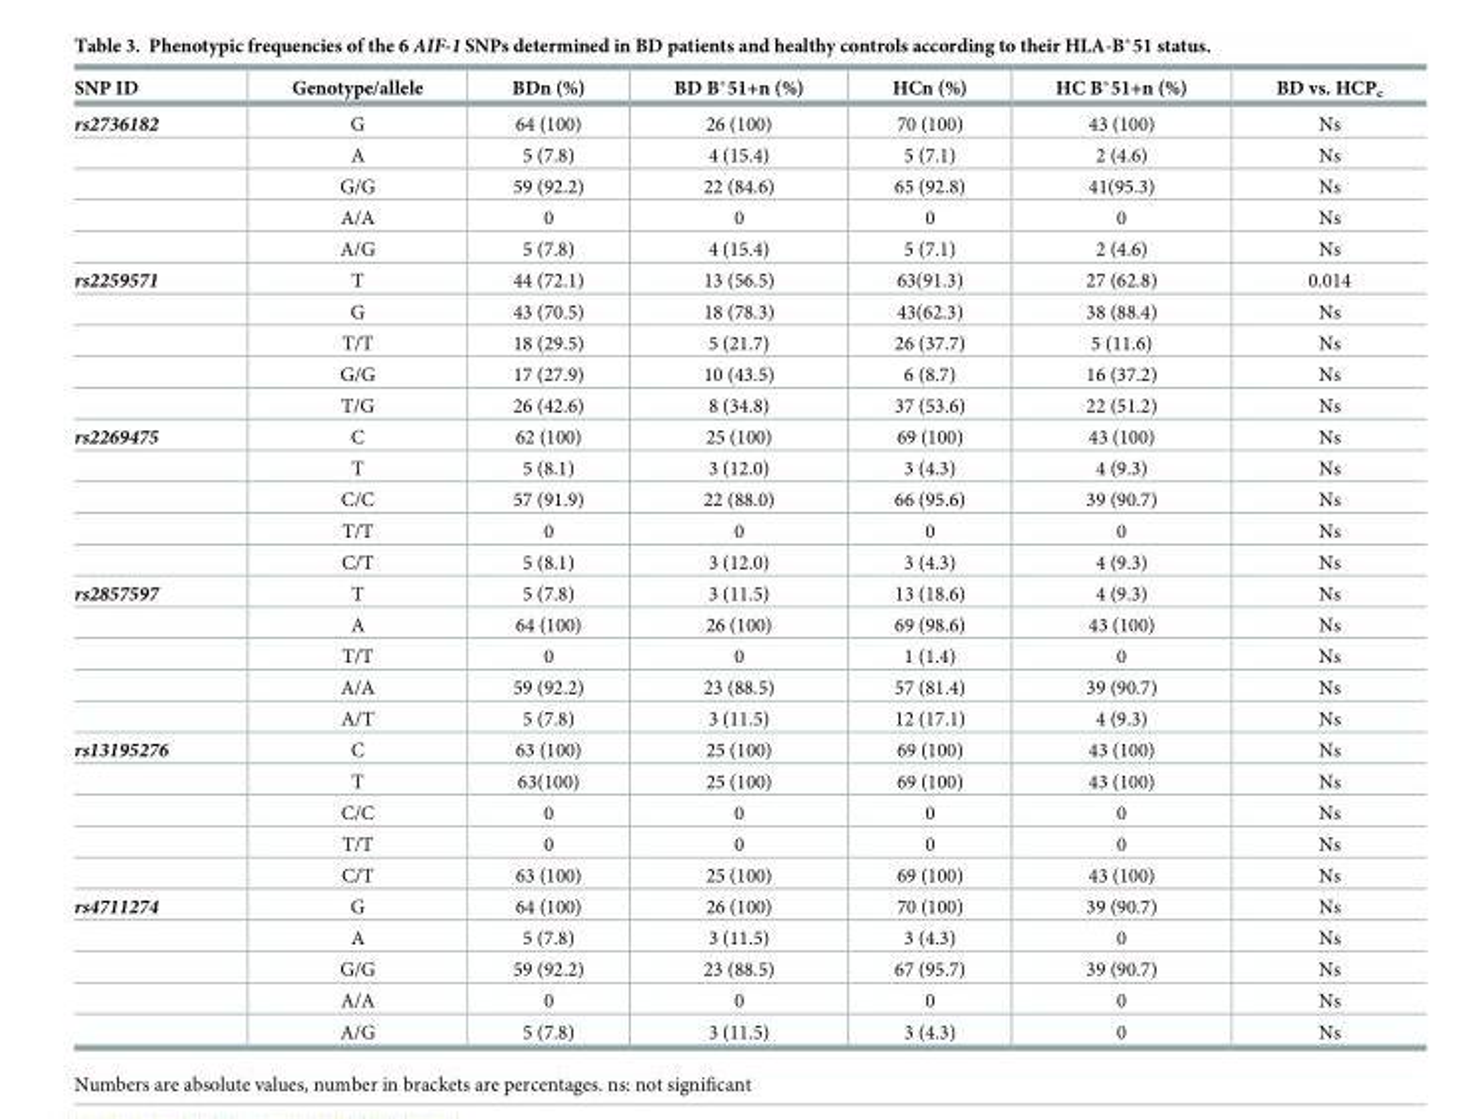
<table><thead><tr><td>SNP ID</td><td>Genotype/allele</td><td>BDn (%)</td><td>BD B*51+n (%)</td><td>HCn (%)</td><td>HC B*51+n (%)</td><td>BD vs. HCP<sub>c</sub></td></tr></thead><tbody><tr><td rowspan="5">rs2736182</td><td>G</td><td>64 (100)</td><td>26 (100)</td><td>70 (100)</td><td>43 (100)</td><td>Ns</td></tr><tr><td>A</td><td>5 (7.8)</td><td>4 (15.4)</td><td>5 (7.1)</td><td>2 (4.6)</td><td>Ns</td></tr><tr><td>G/G</td><td>59 (92.2)</td><td>22 (84.6)</td><td>65 (92.8)</td><td>41(95.3)</td><td>Ns</td></tr><tr><td>A/A</td><td>0</td><td>0</td><td>0</td><td>0</td><td>Ns</td></tr><tr><td>A/G</td><td>5 (7.8)</td><td>4 (15.4)</td><td>5 (7.1)</td><td>2 (4.6)</td><td>Ns</td></tr><tr><td rowspan="5">rs2259571</td><td>T</td><td>44 (72.1)</td><td>13 (56.5)</td><td>63(91.3)</td><td>27 (62.8)</td><td>0.014</td></tr><tr><td>G</td><td>43 (70.5)</td><td>18 (78.3)</td><td>43(62.3)</td><td>38 (88.4)</td><td>Ns</td></tr><tr><td>T/T</td><td>18 (29.5)</td><td>5 (21.7)</td><td>26 (37.7)</td><td>5 (11.6)</td><td>Ns</td></tr><tr><td>G/G</td><td>17 (27.9)</td><td>10 (43.5)</td><td>6 (8.7)</td><td>16 (37.2)</td><td>Ns</td></tr><tr><td>T/G</td><td>26 (42.6)</td><td>8 (34.8)</td><td>37 (53.6)</td><td>22 (51.2)</td><td>Ns</td></tr><tr><td rowspan="5">rs2269475</td><td>C</td><td>62 (100)</td><td>25 (100)</td><td>69 (100)</td><td>43 (100)</td><td>Ns</td></tr><tr><td>T</td><td>5 (8.1)</td><td>3 (12.0)</td><td>3 (4.3)</td><td>4 (9.3)</td><td>Ns</td></tr><tr><td>C/C</td><td>57 (91.9)</td><td>22 (88.0)</td><td>66 (95.6)</td><td>39 (90.7)</td><td>Ns</td></tr><tr><td>T/T</td><td>0</td><td>0</td><td>0</td><td>0</td><td>Ns</td></tr><tr><td>C/T</td><td>5 (8.1)</td><td>3 (12.0)</td><td>3 (4.3)</td><td>4 (9.3)</td><td>Ns</td></tr><tr><td rowspan="5">rs2857597</td><td>T</td><td>5 (7.8)</td><td>3 (11.5)</td><td>13 (18.6)</td><td>4 (9.3)</td><td>Ns</td></tr><tr><td>A</td><td>64 (100)</td><td>26 (100)</td><td>69 (98.6)</td><td>43 (100)</td><td>Ns</td></tr><tr><td>T/T</td><td>0</td><td>0</td><td>1 (1.4)</td><td>0</td><td>Ns</td></tr><tr><td>A/A</td><td>59 (92.2)</td><td>23 (88.5)</td><td>57 (81.4)</td><td>39 (90.7)</td><td>Ns</td></tr><tr><td>A/T</td><td>5 (7.8)</td><td>3 (11.5)</td><td>12 (17.1)</td><td>4 (9.3)</td><td>Ns</td></tr><tr><td rowspan="5">rs13195276</td><td>C</td><td>63 (100)</td><td>25 (100)</td><td>69 (100)</td><td>43 (100)</td><td>Ns</td></tr><tr><td>T</td><td>63(100)</td><td>25 (100)</td><td>69 (100)</td><td>43 (100)</td><td>Ns</td></tr><tr><td>C/C</td><td>0</td><td>0</td><td>0</td><td>0</td><td>Ns</td></tr><tr><td>T/T</td><td>0</td><td>0</td><td>0</td><td>0</td><td>Ns</td></tr><tr><td>C/T</td><td>63 (100)</td><td>25 (100)</td><td>69 (100)</td><td>43 (100)</td><td>Ns</td></tr><tr><td rowspan="5">rs4711274</td><td>G</td><td>64 (100)</td><td>26 (100)</td><td>70 (100)</td><td>39 (90.7)</td><td>Ns</td></tr><tr><td>A</td><td>5 (7.8)</td><td>3 (11.5)</td><td>3 (4.3)</td><td>0</td><td>Ns</td></tr><tr><td>G/G</td><td>59 (92.2)</td><td>23 (88.5)</td><td>67 (95.7)</td><td>39 (90.7)</td><td>Ns</td></tr><tr><td>A/A</td><td>0</td><td>0</td><td>0</td><td>0</td><td>Ns</td></tr><tr><td>A/G</td><td>5 (7.8)</td><td>3 (11.5)</td><td>3 (4.3)</td><td>0</td><td>Ns</td></tr></tbody></table>